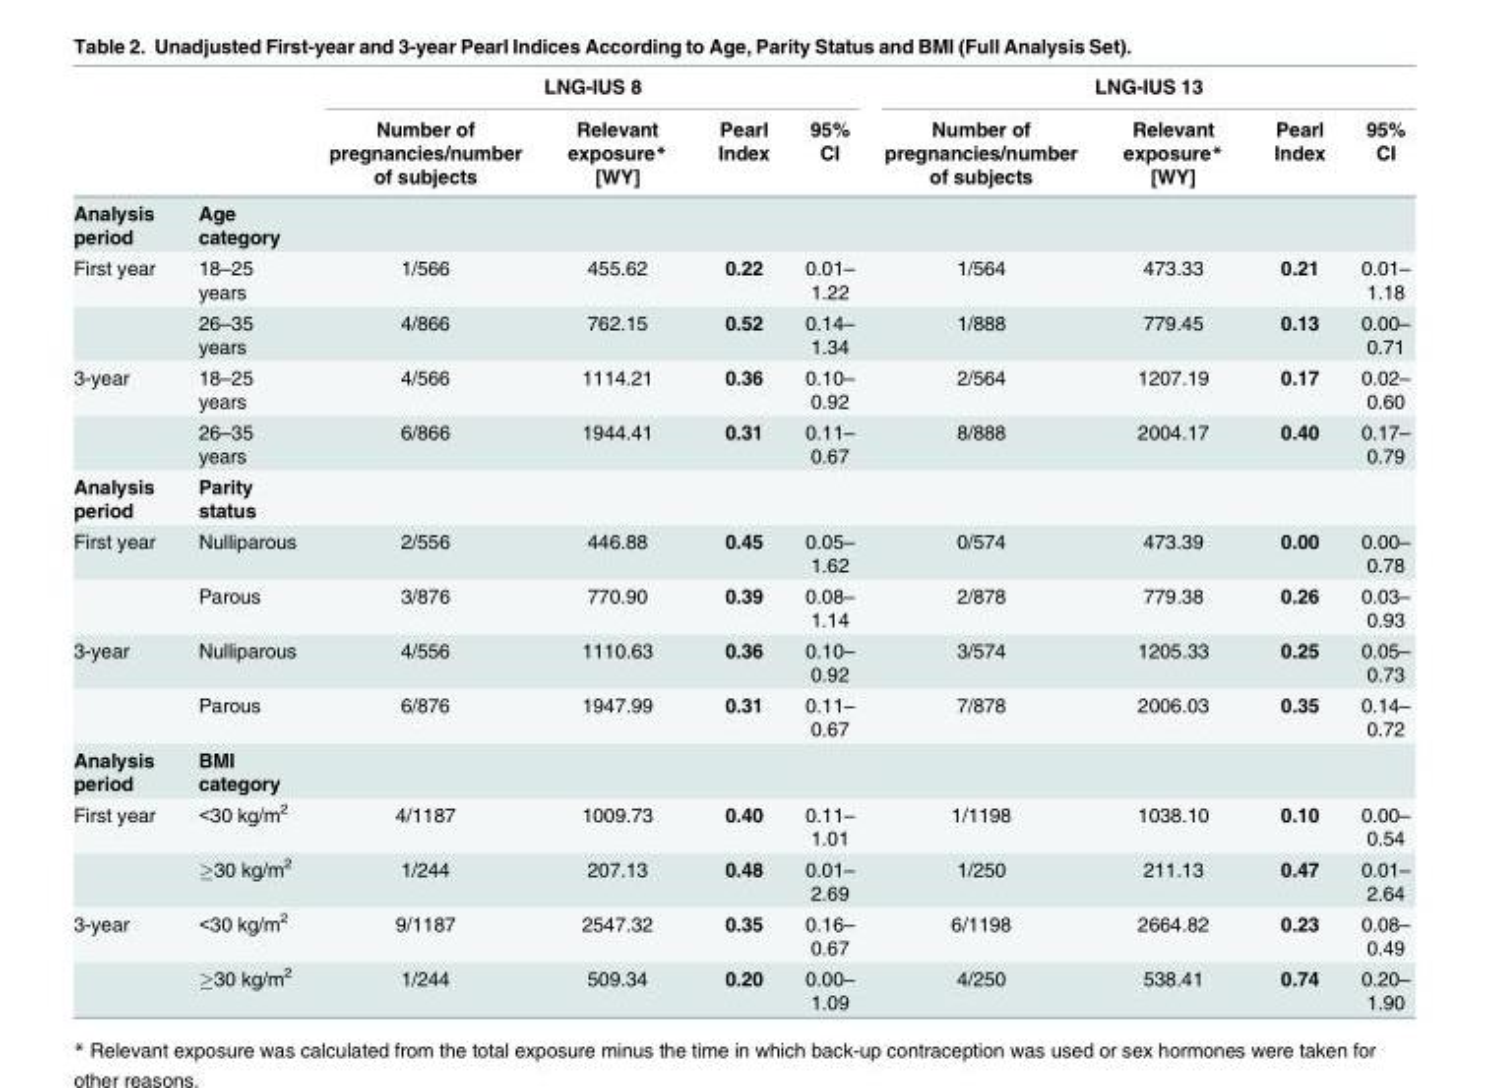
<table><thead><tr><td rowspan="2"></td><td rowspan="2"></td><td colspan="4">LNG-IUS 8</td><td colspan="4">LNG-IUS 13</td></tr><tr><td>Number of pregnancies/number of subjects</td><td>Relevant exposure* [WY]</td><td>Pearl Index</td><td>95% CI</td><td>Number of pregnancies/number of subjects</td><td>Relevant exposure* [WY]</td><td>Pearl Index</td><td>95% CI</td></tr></thead><tbody><tr><td>Analysis period</td><td>Age category</td><td></td><td></td><td></td><td></td><td></td><td></td><td></td><td></td></tr><tr><td rowspan="2">First year</td><td>18–25 years</td><td>1/566</td><td>455.62</td><td>0.22</td><td>0.01– 1.22</td><td>1/564</td><td>473.33</td><td>0.21</td><td>0.01– 1.18</td></tr><tr><td>26–35 years</td><td>4/866</td><td>762.15</td><td>0.52</td><td>0.14– 1.34</td><td>1/888</td><td>779.45</td><td>0.13</td><td>0.00– 0.71</td></tr><tr><td rowspan="2">3-year</td><td>18–25 years</td><td>4/566</td><td>1114.21</td><td>0.36</td><td>0.10– 0.92</td><td>2/564</td><td>1207.19</td><td>0.17</td><td>0.02– 0.60</td></tr><tr><td>26–35 years</td><td>6/866</td><td>1944.41</td><td>0.31</td><td>0.11– 0.67</td><td>8/888</td><td>2004.17</td><td>0.40</td><td>0.17– 0.79</td></tr><tr><td>Analysis period</td><td>Parity status</td><td></td><td></td><td></td><td></td><td></td><td></td><td></td><td></td></tr><tr><td rowspan="2">First year</td><td>Nulliparous</td><td>2/556</td><td>446.88</td><td>0.45</td><td>0.05– 1.62</td><td>0/574</td><td>473.39</td><td>0.00</td><td>0.00– 0.78</td></tr><tr><td>Parous</td><td>3/876</td><td>770.90</td><td>0.39</td><td>0.08– 1.14</td><td>2/878</td><td>779.38</td><td>0.26</td><td>0.03– 0.93</td></tr><tr><td rowspan="2">3-year</td><td>Nulliparous</td><td>4/556</td><td>1110.63</td><td>0.36</td><td>0.10– 0.92</td><td>3/574</td><td>1205.33</td><td>0.25</td><td>0.05– 0.73</td></tr><tr><td>Parous</td><td>6/876</td><td>1947.99</td><td>0.31</td><td>0.11– 0.67</td><td>7/878</td><td>2006.03</td><td>0.35</td><td>0.14– 0.72</td></tr><tr><td>Analysis period</td><td>BMI category</td><td></td><td></td><td></td><td></td><td></td><td></td><td></td><td></td></tr><tr><td rowspan="2">First year</td><td>&lt;30 kg/m<sup>2</sup></td><td>4/1187</td><td>1009.73</td><td>0.40</td><td>0.11– 1.01</td><td>1/1198</td><td>1038.10</td><td>0.10</td><td>0.00– 0.54</td></tr><tr><td>≥30 kg/m<sup>2</sup></td><td>1/244</td><td>207.13</td><td>0.48</td><td>0.01– 2.69</td><td>1/250</td><td>211.13</td><td>0.47</td><td>0.01– 2.64</td></tr><tr><td rowspan="2">3-year</td><td>&lt;30 kg/m<sup>2</sup></td><td>9/1187</td><td>2547.32</td><td>0.35</td><td>0.16– 0.67</td><td>6/1198</td><td>2664.82</td><td>0.23</td><td>0.08– 0.49</td></tr><tr><td>≥30 kg/m<sup>2</sup></td><td>1/244</td><td>509.34</td><td>0.20</td><td>0.00– 1.09</td><td>4/250</td><td>538.41</td><td>0.74</td><td>0.20– 1.90</td></tr></tbody></table>